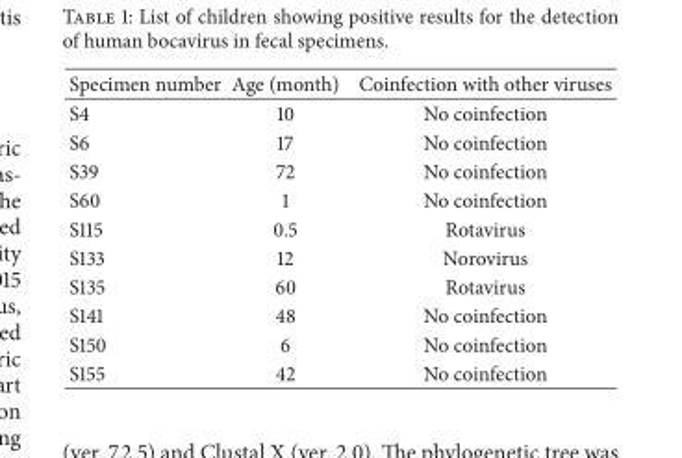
<table><thead><tr><td>Specimen number</td><td>Age (month)</td><td>Coinfection with other viruses</td></tr></thead><tbody><tr><td>S4</td><td>10</td><td>No coinfection</td></tr><tr><td>S6</td><td>17</td><td>No coinfection</td></tr><tr><td>S39</td><td>72</td><td>No coinfection</td></tr><tr><td>S60</td><td>1</td><td>No coinfection</td></tr><tr><td>S115</td><td>0.5</td><td>Rotavirus</td></tr><tr><td>S133</td><td>12</td><td>Norovirus</td></tr><tr><td>S135</td><td>60</td><td>Rotavirus</td></tr><tr><td>S141</td><td>48</td><td>No coinfection</td></tr><tr><td>S150</td><td>6</td><td>No coinfection</td></tr><tr><td>S155</td><td>42</td><td>No coinfection</td></tr></tbody></table>